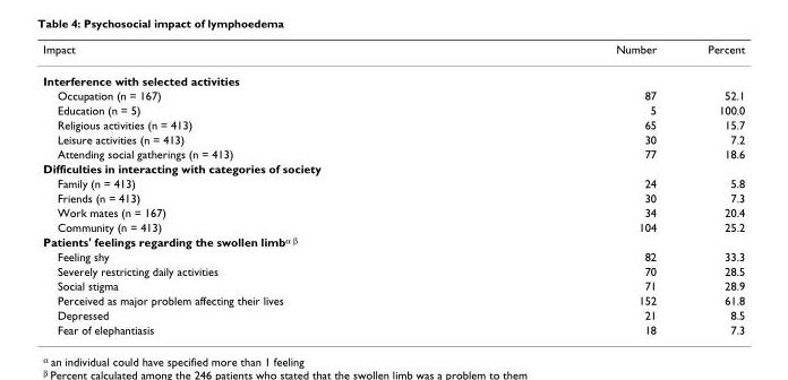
<table><thead><tr><td>Impact</td><td>Number</td><td>Percent</td></tr></thead><tbody><tr><td colspan="3">Interference with selected activities</td></tr><tr><td>Occupation (n = 167)</td><td>87</td><td>52.1</td></tr><tr><td>Education (n = 5)</td><td>5</td><td>100.0</td></tr><tr><td>Religious activities (n = 413)</td><td>65</td><td>15.7</td></tr><tr><td>Leisure activities (n = 413)</td><td>30</td><td>7.2</td></tr><tr><td>Attending social gatherings (n = 413)</td><td>77</td><td>18.6</td></tr><tr><td colspan="3">Difficulties in interacting with categories of society</td></tr><tr><td>Family (n = 413)</td><td>24</td><td>5.8</td></tr><tr><td>Friends (n = 413)</td><td>30</td><td>7.3</td></tr><tr><td>Work mates (n = 167)</td><td>34</td><td>20.4</td></tr><tr><td>Community (n = 413)</td><td>104</td><td>25.2</td></tr><tr><td colspan="3">Patients&#x27; feelings regarding the swollen limb<sup>α β</sup></td></tr><tr><td>Feeling shy</td><td>82</td><td>33.3</td></tr><tr><td>Severely restricting daily activities</td><td>70</td><td>28.5</td></tr><tr><td>Social stigma</td><td>71</td><td>28.9</td></tr><tr><td>Perceived as major problem affecting their lives</td><td>152</td><td>61.8</td></tr><tr><td>Depressed</td><td>21</td><td>8.5</td></tr><tr><td>Fear of elephantiasis</td><td>18</td><td>7.3</td></tr></tbody></table>